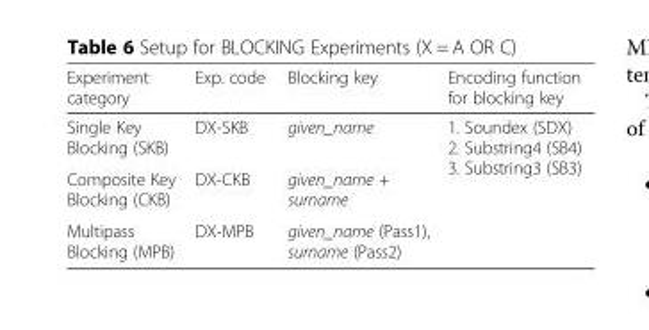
<table><thead><tr><td>Experiment category</td><td>Exp. code</td><td>Blocking key</td><td>Encoding function for blocking key</td></tr></thead><tbody><tr><td>Single Key Blocking (SKB)</td><td>DX-SKB</td><td>given_name</td><td rowspan="3">1. Soundex (SDX) 2. Substring4 (SB4) 3. Substring3 (SB3)</td></tr><tr><td>Composite Key Blocking (CKB)</td><td>DX-CKB</td><td>given_name + surname</td></tr><tr><td>Multipass Blocking (MPB)</td><td>DX-MPB</td><td>given_name (Pass1), surname (Pass2)</td></tr></tbody></table>